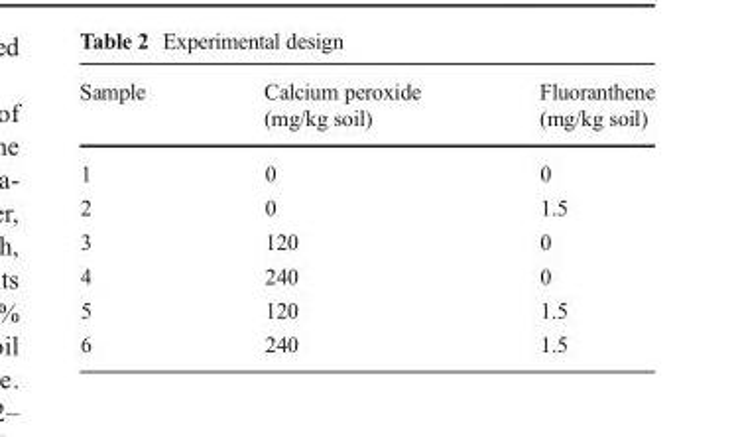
<table><thead><tr><td>Sample</td><td>Calcium peroxide (mg/kg soil)</td><td>Fluoranthene (mg/kg soil)</td></tr></thead><tbody><tr><td>1</td><td>0</td><td>0</td></tr><tr><td>2</td><td>0</td><td>1.5</td></tr><tr><td>3</td><td>120</td><td>0</td></tr><tr><td>4</td><td>240</td><td>0</td></tr><tr><td>5</td><td>120</td><td>1.5</td></tr><tr><td>6</td><td>240</td><td>1.5</td></tr></tbody></table>